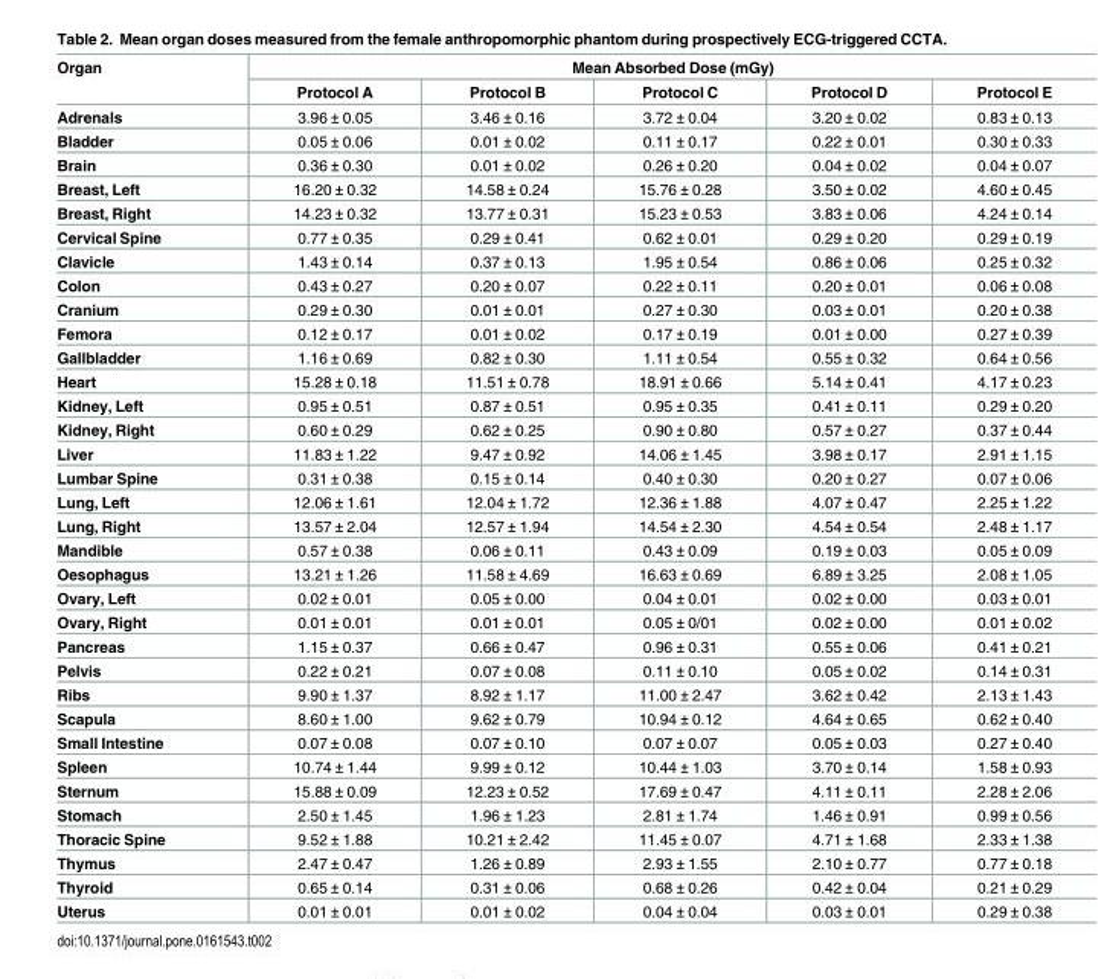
<table><thead><tr><td rowspan="2">Organ</td><td colspan="5">Mean Absorbed Dose (mGy)</td></tr><tr><td>Protocol A</td><td>Protocol B</td><td>Protocol C</td><td>Protocol D</td><td>Protocol E</td></tr></thead><tbody><tr><td>Adrenals</td><td>3.96 ± 0.05</td><td>3.46 ± 0.16</td><td>3.72 ± 0.04</td><td>3.20 ± 0.02</td><td>0.83 ± 0.13</td></tr><tr><td>Bladder</td><td>0.05 ± 0.06</td><td>0.01 ± 0.02</td><td>0.11 ± 0.17</td><td>0.22 ± 0.01</td><td>0.30 ± 0.33</td></tr><tr><td>Brain</td><td>0.36 ± 0.30</td><td>0.01 ± 0.02</td><td>0.26 ± 0.20</td><td>0.04 ± 0.02</td><td>0.04 ± 0.07</td></tr><tr><td>Breast, Left</td><td>16.20 ± 0.32</td><td>14.58 ± 0.24</td><td>15.76 ± 0.28</td><td>3.50 ± 0.02</td><td>4.60 ± 0.45</td></tr><tr><td>Breast, Right</td><td>14.23 ± 0.32</td><td>13.77 ± 0.31</td><td>15.23 ± 0.53</td><td>3.83 ± 0.06</td><td>4.24 ± 0.14</td></tr><tr><td>Cervical Spine</td><td>0.77 ± 0.35</td><td>0.29 ± 0.41</td><td>0.62 ± 0.01</td><td>0.29 ± 0.20</td><td>0.29 ± 0.19</td></tr><tr><td>Clavicle</td><td>1.43 ± 0.14</td><td>0.37 ± 0.13</td><td>1.95 ± 0.54</td><td>0.86 ± 0.06</td><td>0.25 ± 0.32</td></tr><tr><td>Colon</td><td>0.43 ± 0.27</td><td>0.20 ± 0.07</td><td>0.22 ± 0.11</td><td>0.20 ± 0.01</td><td>0.06 ± 0.08</td></tr><tr><td>Cranium</td><td>0.29 ± 0.30</td><td>0.01 ± 0.01</td><td>0.27 ± 0.30</td><td>0.03 ± 0.01</td><td>0.20 ± 0.38</td></tr><tr><td>Femora</td><td>0.12 ± 0.17</td><td>0.01 ± 0.02</td><td>0.17 ± 0.19</td><td>0.01 ± 0.00</td><td>0.27 ± 0.39</td></tr><tr><td>Gallbladder</td><td>1.16 ± 0.69</td><td>0.82 ± 0.30</td><td>1.11 ± 0.54</td><td>0.55 ± 0.32</td><td>0.64 ± 0.56</td></tr><tr><td>Heart</td><td>15.28 ± 0.18</td><td>11.51 ± 0.78</td><td>18.91 ± 0.66</td><td>5.14 ± 0.41</td><td>4.17 ± 0.23</td></tr><tr><td>Kidney, Left</td><td>0.95 ± 0.51</td><td>0.87 ± 0.51</td><td>0.95 ± 0.35</td><td>0.41 ± 0.11</td><td>0.29 ± 0.20</td></tr><tr><td>Kidney, Right</td><td>0.60 ± 0.29</td><td>0.62 ± 0.25</td><td>0.90 ± 0.80</td><td>0.57 ± 0.27</td><td>0.37 ± 0.44</td></tr><tr><td>Liver</td><td>11.83 ± 1.22</td><td>9.47 ± 0.92</td><td>14.06 ± 1.45</td><td>3.98 ± 0.17</td><td>2.91 ± 1.15</td></tr><tr><td>Lumbar Spine</td><td>0.31 ± 0.38</td><td>0.15 ± 0.14</td><td>0.40 ± 0.30</td><td>0.20 ± 0.27</td><td>0.07 ± 0.06</td></tr><tr><td>Lung, Left</td><td>12.06 ± 1.61</td><td>12.04 ± 1.72</td><td>12.36 ± 1.88</td><td>4.07 ± 0.47</td><td>2.25 ± 1.22</td></tr><tr><td>Lung, Right</td><td>13.57 ± 2.04</td><td>12.57 ± 1.94</td><td>14.54 ± 2.30</td><td>4.54 ± 0.54</td><td>2.48 ± 1.17</td></tr><tr><td>Mandible</td><td>0.57 ± 0.38</td><td>0.06 ± 0.11</td><td>0.43 ± 0.09</td><td>0.19 ± 0.03</td><td>0.05 ± 0.09</td></tr><tr><td>Oesophagus</td><td>13.21 ± 1.26</td><td>11.58 ± 4.69</td><td>16.63 ± 0.69</td><td>6.89 ± 3.25</td><td>2.08 ± 1.05</td></tr><tr><td>Ovary, Left</td><td>0.02 ± 0.01</td><td>0.05 ± 0.00</td><td>0.04 ± 0.01</td><td>0.02 ± 0.00</td><td>0.03 ± 0.01</td></tr><tr><td>Ovary, Right</td><td>0.01 ± 0.01</td><td>0.01 ± 0.01</td><td>0.05 ± 0/01</td><td>0.02 ± 0.00</td><td>0.01 ± 0.02</td></tr><tr><td>Pancreas</td><td>1.15 ± 0.37</td><td>0.66 ± 0.47</td><td>0.96 ± 0.31</td><td>0.55 ± 0.06</td><td>0.41 ± 0.21</td></tr><tr><td>Pelvis</td><td>0.22 ± 0.21</td><td>0.07 ± 0.08</td><td>0.11 ± 0.10</td><td>0.05 ± 0.02</td><td>0.14 ± 0.31</td></tr><tr><td>Ribs</td><td>9.90 ± 1.37</td><td>8.92 ± 1.17</td><td>11.00 ± 2.47</td><td>3.62 ± 0.42</td><td>2.13 ± 1.43</td></tr><tr><td>Scapula</td><td>8.60 ± 1.00</td><td>9.62 ± 0.79</td><td>10.94 ± 0.12</td><td>4.64 ± 0.65</td><td>0.62 ± 0.40</td></tr><tr><td>Small Intestine</td><td>0.07 ± 0.08</td><td>0.07 ± 0.10</td><td>0.07 ± 0.07</td><td>0.05 ± 0.03</td><td>0.27 ± 0.40</td></tr><tr><td>Spleen</td><td>10.74 ± 1.44</td><td>9.99 ± 0.12</td><td>10.44 ± 1.03</td><td>3.70 ± 0.14</td><td>1.58 ± 0.93</td></tr><tr><td>Sternum</td><td>15.88 ± 0.09</td><td>12.23 ± 0.52</td><td>17.69 ± 0.47</td><td>4.11 ± 0.11</td><td>2.28 ± 2.06</td></tr><tr><td>Stomach</td><td>2.50 ± 1.45</td><td>1.96 ± 1.23</td><td>2.81 ± 1.74</td><td>1.46 ± 0.91</td><td>0.99 ± 0.56</td></tr><tr><td>Thoracic Spine</td><td>9.52 ± 1.88</td><td>10.21 ± 2.42</td><td>11.45 ± 0.07</td><td>4.71 ± 1.68</td><td>2.33 ± 1.38</td></tr><tr><td>Thymus</td><td>2.47 ± 0.47</td><td>1.26 ± 0.89</td><td>2.93 ± 1.55</td><td>2.10 ± 0.77</td><td>0.77 ± 0.18</td></tr><tr><td>Thyroid</td><td>0.65 ± 0.14</td><td>0.31 ± 0.06</td><td>0.68 ± 0.26</td><td>0.42 ± 0.04</td><td>0.21 ± 0.29</td></tr><tr><td>Uterus</td><td>0.01 ± 0.01</td><td>0.01 ± 0.02</td><td>0.04 ± 0.04</td><td>0.03 ± 0.01</td><td>0.29 ± 0.38</td></tr></tbody></table>